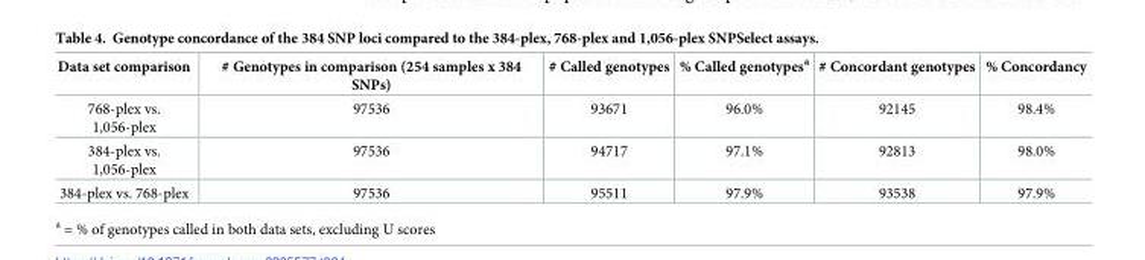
<table><thead><tr><td>Data set comparison</td><td># Genotypes in comparison (254 samples x 384 SNPs)</td><td># Called genotypes</td><td>% Called genotypes<sup>a</sup></td><td># Concordant genotypes</td><td>% Concordancy</td></tr></thead><tbody><tr><td>768-plex vs. 1,056-plex</td><td>97536</td><td>93671</td><td>96.0%</td><td>92145</td><td>98.4%</td></tr><tr><td>384-plex vs. 1,056-plex</td><td>97536</td><td>94717</td><td>97.1%</td><td>92813</td><td>98.0%</td></tr><tr><td>384-plex vs. 768-plex</td><td>97536</td><td>95511</td><td>97.9%</td><td>93538</td><td>97.9%</td></tr></tbody></table>